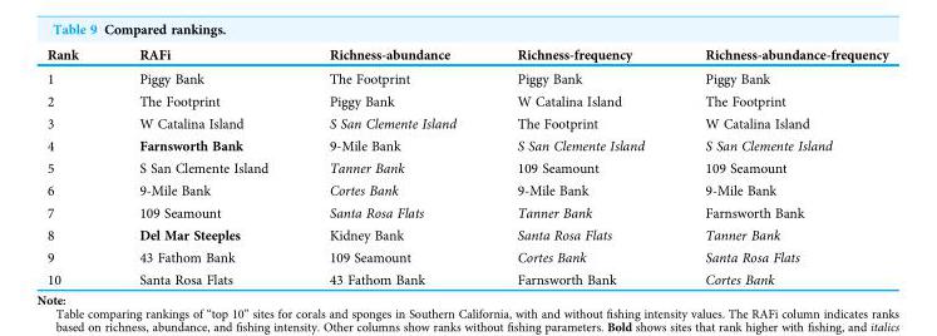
<table><thead><tr><td>Rank</td><td>RAFi</td><td>Richness-abundance</td><td>Richness-frequency</td><td>Richness-abundance-frequency</td></tr></thead><tbody><tr><td>1</td><td>Piggy Bank</td><td>The Footprint</td><td>Piggy Bank</td><td>Piggy Bank</td></tr><tr><td>2</td><td>The Footprint</td><td>Piggy Bank</td><td>W Catalina Island</td><td>The Footprint</td></tr><tr><td>3</td><td>W Catalina Island</td><td>S San Clemente Island</td><td>The Footprint</td><td>W Catalina Island</td></tr><tr><td>4</td><td>Farnsworth Bank</td><td>9-Mile Bank</td><td>S San Clemente Island</td><td>S San Clemente Island</td></tr><tr><td>5</td><td>S San Clemente Island</td><td>Tanner Bank</td><td>109 Seamount</td><td>109 Seamount</td></tr><tr><td>6</td><td>9-Mile Bank</td><td>Cortes Bank</td><td>9-Mile Bank</td><td>9-Mile Bank</td></tr><tr><td>7</td><td>109 Seamount</td><td>Santa Rosa Flats</td><td>Tanner Bank</td><td>Farnsworth Bank</td></tr><tr><td>8</td><td>Del Mar Steeples</td><td>Kidney Bank</td><td>Santa Rosa Flats</td><td>Tanner Bank</td></tr><tr><td>9</td><td>43 Fathom Bank</td><td>109 Seamount</td><td>Cortes Bank</td><td>Santa Rosa Flats</td></tr><tr><td>10</td><td>Santa Rosa Flats</td><td>43 Fathom Bank</td><td>Farnsworth Bank</td><td>Cortes Bank</td></tr></tbody></table>